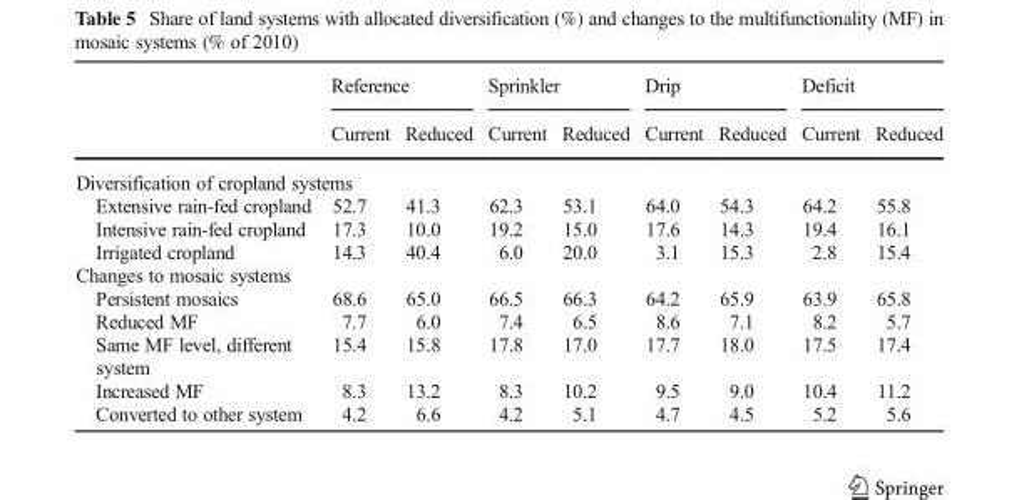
<table><thead><tr><td rowspan="2"></td><td colspan="2">Reference</td><td colspan="2">Sprinkler</td><td colspan="2">Drip</td><td colspan="2">Deficit</td></tr><tr><td>Current</td><td>Reduced</td><td>Current</td><td>Reduced</td><td>Current</td><td>Reduced</td><td>Current</td><td>Reduced</td></tr></thead><tbody><tr><td colspan="9">Diversification of cropland systems</td></tr><tr><td>Extensive rain-fed cropland</td><td>52.7</td><td>41.3</td><td>62.3</td><td>53.1</td><td>64.0</td><td>54.3</td><td>64.2</td><td>55.8</td></tr><tr><td>Intensive rain-fed cropland</td><td>17.3</td><td>10.0</td><td>19.2</td><td>15.0</td><td>17.6</td><td>14.3</td><td>19.4</td><td>16.1</td></tr><tr><td>Irrigated cropland</td><td>14.3</td><td>40.4</td><td>6.0</td><td>20.0</td><td>3.1</td><td>15.3</td><td>2.8</td><td>15.4</td></tr><tr><td colspan="9">Changes to mosaic systems</td></tr><tr><td>Persistent mosaics</td><td>68.6</td><td>65.0</td><td>66.5</td><td>66.3</td><td>64.2</td><td>65.9</td><td>63.9</td><td>65.8</td></tr><tr><td>Reduced MF</td><td>7.7</td><td>6.0</td><td>7.4</td><td>6.5</td><td>8.6</td><td>7.1</td><td>8.2</td><td>5.7</td></tr><tr><td>Same MF level, different system</td><td>15.4</td><td>15.8</td><td>17.8</td><td>17.0</td><td>17.7</td><td>18.0</td><td>17.5</td><td>17.4</td></tr><tr><td>Increased MF</td><td>8.3</td><td>13.2</td><td>8.3</td><td>10.2</td><td>9.5</td><td>9.0</td><td>10.4</td><td>11.2</td></tr><tr><td>Converted to other system</td><td>4.2</td><td>6.6</td><td>4.2</td><td>5.1</td><td>4.7</td><td>4.5</td><td>5.2</td><td>5.6</td></tr></tbody></table>